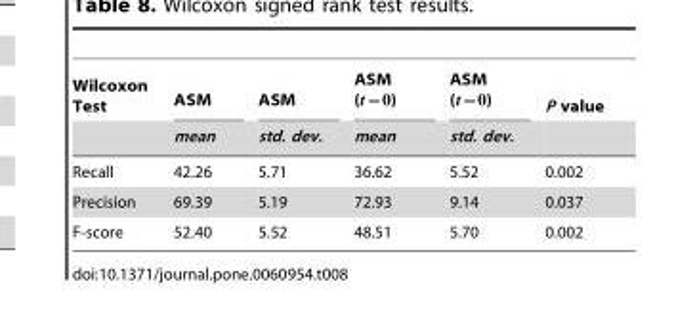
<table><thead><tr><td rowspan="2">Wilcoxon Test</td><td rowspan="2">ASM mean</td><td rowspan="2">ASM std. dev.</td><td rowspan="2">ASM (t~0) mean</td><td rowspan="2">ASM (t~0) std. dev.</td><td rowspan="2">P value</td></tr><tr></tr></thead><tbody><tr><td>Recall</td><td>42.26</td><td>5.71</td><td>36.62</td><td>5.52</td><td>0.002</td></tr><tr><td>Precision</td><td>69.39</td><td>5.19</td><td>72.93</td><td>9.14</td><td>0.037</td></tr><tr><td>F-score</td><td>52.40</td><td>5.52</td><td>48.51</td><td>5.70</td><td>0.002</td></tr></tbody></table>